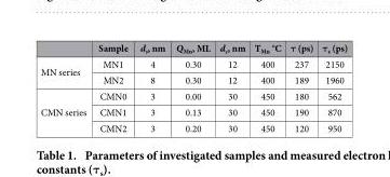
<table><thead><tr><td></td><td>Sample</td><td>d<sub>s</sub>, nm</td><td>Q<sub>Mn</sub>, ML</td><td>d<sub>c</sub>, nm</td><td>T<sub>Mn</sub> °C</td><td>τ (ps)</td><td>τ<sub>s</sub> (ps)</td></tr></thead><tbody><tr><td rowspan="2">MN series</td><td>MN1</td><td>4</td><td>0.30</td><td>12</td><td>400</td><td>237</td><td>2150</td></tr><tr><td>MN2</td><td>8</td><td>0.30</td><td>12</td><td>400</td><td>189</td><td>1960</td></tr><tr><td rowspan="3">CMN series</td><td>CMN0</td><td>3</td><td>0.00</td><td>30</td><td>450</td><td>180</td><td>562</td></tr><tr><td>CMN1</td><td>3</td><td>0.13</td><td>30</td><td>450</td><td>190</td><td>870</td></tr><tr><td>CMN2</td><td>3</td><td>0.20</td><td>30</td><td>450</td><td>120</td><td>950</td></tr></tbody></table>